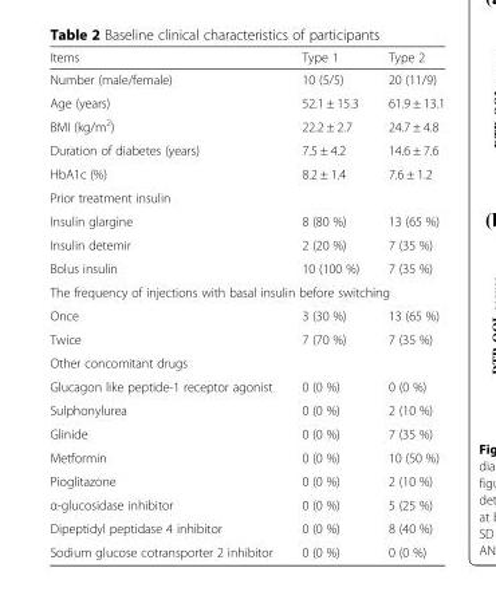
<table><thead><tr><td>Items</td><td>Type 1</td><td>Type 2</td></tr></thead><tbody><tr><td>Number (male/female)</td><td>10 (5/5)</td><td>20 (11/9)</td></tr><tr><td>Age (years)</td><td>52.1 ± 15.3</td><td>61.9 ± 13.1</td></tr><tr><td>BMI (kg/m<sup>2</sup>)</td><td>22.2 ± 2.7</td><td>24.7 ± 4.8</td></tr><tr><td>Duration of diabetes (years)</td><td>7.5 ± 4.2</td><td>14.6 ± 7.6</td></tr><tr><td>HbA1c (%)</td><td>8.2 ± 1.4</td><td>7.6 ± 1.2</td></tr><tr><td colspan="3">Prior treatment insulin</td></tr><tr><td>Insulin glargine</td><td>8 (80 %)</td><td>13 (65 %)</td></tr><tr><td>Insulin detemir</td><td>2 (20 %)</td><td>7 (35 %)</td></tr><tr><td>Bolus insulin</td><td>10 (100 %)</td><td>7 (35 %)</td></tr><tr><td colspan="3">The frequency of injections with basal insulin before switching</td></tr><tr><td>Once</td><td>3 (30 %)</td><td>13 (65 %)</td></tr><tr><td>Twice</td><td>7 (70 %)</td><td>7 (35 %)</td></tr><tr><td colspan="3">Other concomitant drugs</td></tr><tr><td>Glucagon like peptide-1 receptor agonist</td><td>0 (0 %)</td><td>0 (0 %)</td></tr><tr><td>Sulphonylurea</td><td>0 (0 %)</td><td>2 (10 %)</td></tr><tr><td>Glinide</td><td>0 (0 %)</td><td>7 (35 %)</td></tr><tr><td>Metformin</td><td>0 (0 %)</td><td>10 (50 %)</td></tr><tr><td>Pioglitazone</td><td>0 (0 %)</td><td>2 (10 %)</td></tr><tr><td>α-glucosidase inhibitor</td><td>0 (0 %)</td><td>5 (25 %)</td></tr><tr><td>Dipeptidyl peptidase 4 inhibitor</td><td>0 (0 %)</td><td>8 (40 %)</td></tr><tr><td>Sodium glucose cotransporter 2 inhibitor</td><td>0 (0 %)</td><td>0 (0 %)</td></tr></tbody></table>